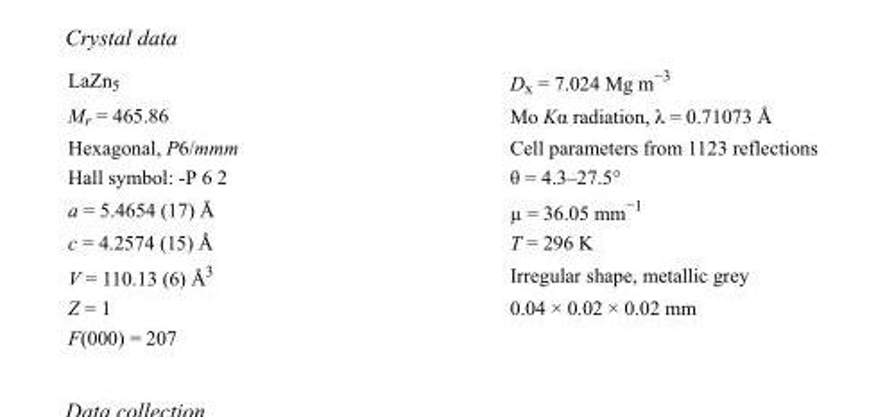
<table><tbody><tr><td>LaZn<sub>5</sub></td><td>D<sub>x</sub> = 7.024 Mg m<sup>−3</sup></td></tr><tr><td>M<sub>r</sub> = 465.86</td><td>Mo Kα radiation, λ = 0.71073 Å</td></tr><tr><td>Hexagonal, P6/mmm</td><td>Cell parameters from 1123 reflections</td></tr><tr><td>Hall symbol: -P 6 2</td><td>θ = 4.3–27.5°</td></tr><tr><td>a = 5.4654 (17) Å</td><td>µ = 36.05 mm<sup>−1</sup></td></tr><tr><td>c = 4.2574 (15) Å</td><td>T = 296 K</td></tr><tr><td>V = 110.13 (6) Å<sup>3</sup></td><td>Irregular shape, metallic grey</td></tr><tr><td>Z = 1</td><td>0.04 × 0.02 × 0.02 mm</td></tr><tr><td>F(000) = 207</td><td></td></tr></tbody></table>